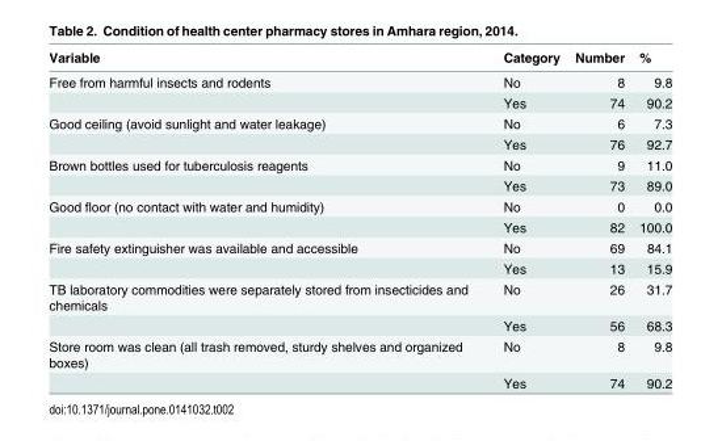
<table><thead><tr><td>Variable</td><td>Category</td><td>Number</td><td>%</td></tr></thead><tbody><tr><td rowspan="2">Free from harmful insects and rodents</td><td>No</td><td>8</td><td>9.8</td></tr><tr><td>Yes</td><td>74</td><td>90.2</td></tr><tr><td rowspan="2">Good ceiling (avoid sunlight and water leakage)</td><td>No</td><td>6</td><td>7.3</td></tr><tr><td>Yes</td><td>76</td><td>92.7</td></tr><tr><td rowspan="2">Brown bottles used for tuberculosis reagents</td><td>No</td><td>9</td><td>11.0</td></tr><tr><td>Yes</td><td>73</td><td>89.0</td></tr><tr><td rowspan="2">Good floor (no contact with water and humidity)</td><td>No</td><td>0</td><td>0.0</td></tr><tr><td>Yes</td><td>82</td><td>100.0</td></tr><tr><td rowspan="2">Fire safety extinguisher was available and accessible</td><td>No</td><td>69</td><td>84.1</td></tr><tr><td>Yes</td><td>13</td><td>15.9</td></tr><tr><td rowspan="2">TB laboratory commodities were separately stored from insecticides and chemicals</td><td>No</td><td>26</td><td>31.7</td></tr><tr><td>Yes</td><td>56</td><td>68.3</td></tr><tr><td rowspan="2">Store room was clean (all trash removed, sturdy shelves and organized boxes)</td><td>No</td><td>8</td><td>9.8</td></tr><tr><td>Yes</td><td>74</td><td>90.2</td></tr></tbody></table>